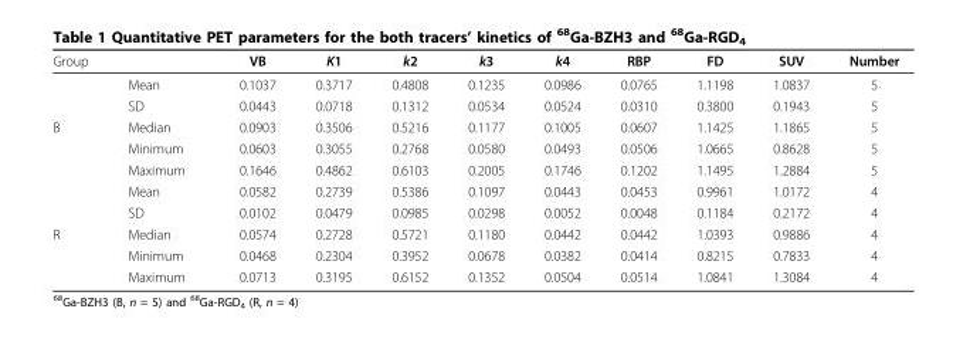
<table><thead><tr><td>Group</td><td></td><td>VB</td><td>K1</td><td>k2</td><td>k3</td><td>k4</td><td>RBP</td><td>FD</td><td>SUV</td><td>Number</td></tr></thead><tbody><tr><td></td><td>Mean</td><td>0.1037</td><td>0.3717</td><td>0.4808</td><td>0.1235</td><td>0.0986</td><td>0.0765</td><td>1.1198</td><td>1.0837</td><td>5</td></tr><tr><td></td><td>SD</td><td>0.0443</td><td>0.0718</td><td>0.1312</td><td>0.0534</td><td>0.0524</td><td>0.0310</td><td>0.3800</td><td>0.1943</td><td>5</td></tr><tr><td rowspan="5">B</td><td>Median</td><td>0.0903</td><td>0.3506</td><td>0.5216</td><td>0.1177</td><td>0.1005</td><td>0.0607</td><td>1.1425</td><td>1.1865</td><td>5</td></tr><tr><td>Minimum</td><td>0.0603</td><td>0.3055</td><td>0.2768</td><td>0.0580</td><td>0.0493</td><td>0.0506</td><td>1.0665</td><td>0.8628</td><td>5</td></tr><tr><td>Maximum</td><td>0.1646</td><td>0.4862</td><td>0.6103</td><td>0.2005</td><td>0.1746</td><td>0.1202</td><td>1.1495</td><td>1.2884</td><td>5</td></tr><tr><td>Mean</td><td>0.0582</td><td>0.2739</td><td>0.5386</td><td>0.1097</td><td>0.0443</td><td>0.0453</td><td>0.9961</td><td>1.0172</td><td>4</td></tr><tr><td>SD</td><td>0.0102</td><td>0.0479</td><td>0.0985</td><td>0.0298</td><td>0.0052</td><td>0.0048</td><td>0.1184</td><td>0.2172</td><td>4</td></tr><tr><td rowspan="3">R</td><td>Median</td><td>0.0574</td><td>0.2728</td><td>0.5721</td><td>0.1180</td><td>0.0442</td><td>0.0442</td><td>1.0393</td><td>0.9886</td><td>4</td></tr><tr><td>Minimum</td><td>0.0468</td><td>0.2304</td><td>0.3952</td><td>0.0678</td><td>0.0382</td><td>0.0414</td><td>0.8215</td><td>0.7833</td><td>4</td></tr><tr><td>Maximum</td><td>0.0713</td><td>0.3195</td><td>0.6152</td><td>0.1352</td><td>0.0504</td><td>0.0514</td><td>1.0841</td><td>1.3084</td><td>4</td></tr></tbody></table>